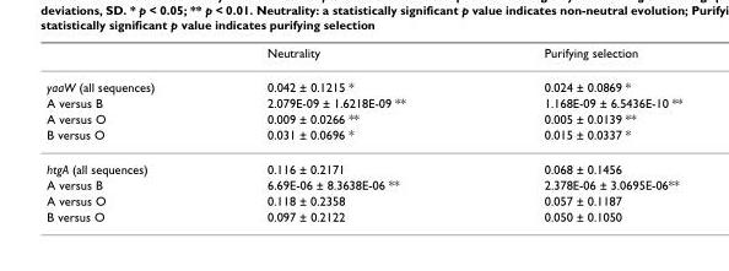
<table><thead><tr><td></td><td>Neutrality</td><td>Purifying selection</td></tr></thead><tbody><tr><td>yaaW (all sequences)</td><td>0.042 ± 0.1215 *</td><td>0.024 ± 0.0869 *</td></tr><tr><td>A versus B</td><td>2.079E-09 ± 1.6218E-09 **</td><td>1.168E-09 ± 6.5436E-10 **</td></tr><tr><td>A versus O</td><td>0.009 ± 0.0266 **</td><td>0.005 ± 0.0139 **</td></tr><tr><td>B versus O</td><td>0.031 ± 0.0696 *</td><td>0.015 ± 0.0337 *</td></tr><tr><td>htgA (all sequences)</td><td>0.116 ± 0.2171</td><td>0.068 ± 0.1456</td></tr><tr><td>A versus B</td><td>6.69E-06 ± 8.3638E-06 **</td><td>2.378E-06 ± 3.0695E-06**</td></tr><tr><td>A versus O</td><td>0.118 ± 0.2358</td><td>0.057 ± 0.1187</td></tr><tr><td>B versus O</td><td>0.097 ± 0.2122</td><td>0.050 ± 0.1050</td></tr></tbody></table>